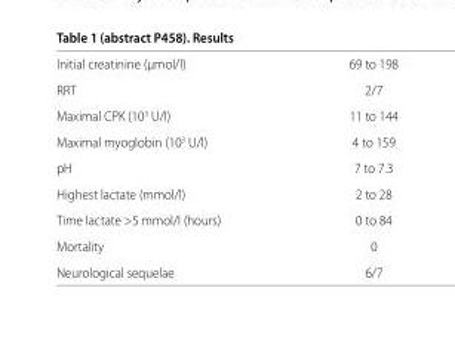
<table><tbody><tr><td>Initial creatinine (μmol/l)</td><td>69 to 198</td></tr><tr><td>RRT</td><td>2/7</td></tr><tr><td>Maximal CPK (10<sup>3</sup> U/l)</td><td>11 to 144</td></tr><tr><td>Maximal myoglobin (10<sup>3</sup> U/l)</td><td>4 to 159</td></tr><tr><td>pH</td><td>7 to 7.3</td></tr><tr><td>Highest lactate (mmol/l)</td><td>2 to 28</td></tr><tr><td>Time lactate &gt;5 mmol/l (hours)</td><td>0 to 84</td></tr><tr><td>Mortality</td><td>0</td></tr><tr><td>Neurological sequelae</td><td>6/7</td></tr></tbody></table>